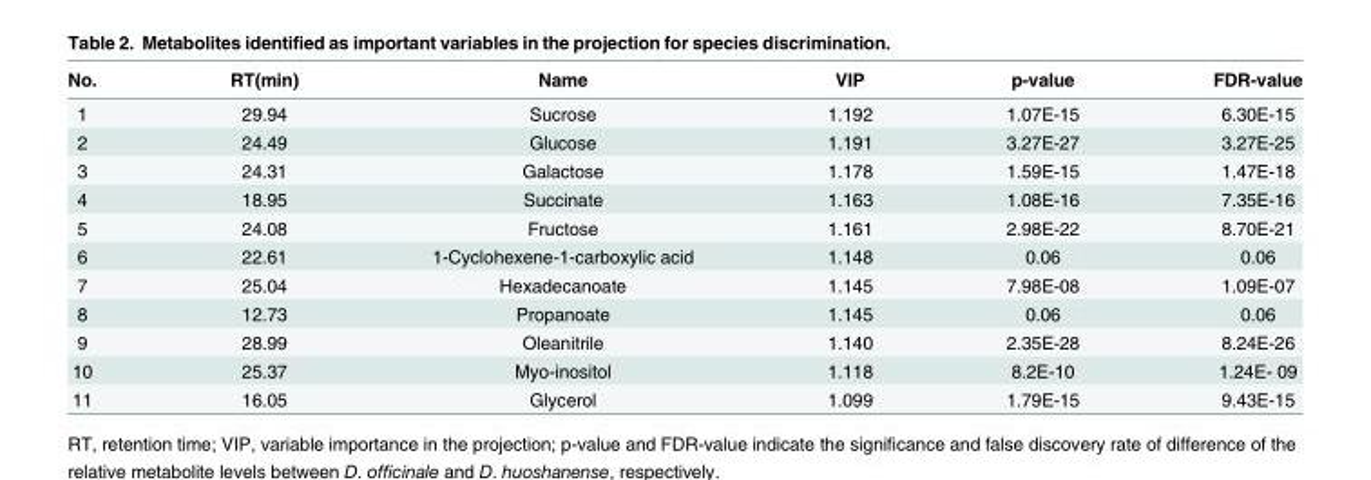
<table><thead><tr><td>No.</td><td>RT(min)</td><td>Name</td><td>VIP</td><td>p-value</td><td>FDR-value</td></tr></thead><tbody><tr><td>1</td><td>29.94</td><td>Sucrose</td><td>1.192</td><td>1.07E-15</td><td>6.30E-15</td></tr><tr><td>2</td><td>24.49</td><td>Glucose</td><td>1.191</td><td>3.27E-27</td><td>3.27E-25</td></tr><tr><td>3</td><td>24.31</td><td>Galactose</td><td>1.178</td><td>1.59E-15</td><td>1.47E-18</td></tr><tr><td>4</td><td>18.95</td><td>Succinate</td><td>1.163</td><td>1.08E-16</td><td>7.35E-16</td></tr><tr><td>5</td><td>24.08</td><td>Fructose</td><td>1.161</td><td>2.98E-22</td><td>8.70E-21</td></tr><tr><td>6</td><td>22.61</td><td>1-Cyclohexene-1-carboxylic acid</td><td>1.148</td><td>0.06</td><td>0.06</td></tr><tr><td>7</td><td>25.04</td><td>Hexadecanoate</td><td>1.145</td><td>7.98E-08</td><td>1.09E-07</td></tr><tr><td>8</td><td>12.73</td><td>Propanoate</td><td>1.145</td><td>0.06</td><td>0.06</td></tr><tr><td>9</td><td>28.99</td><td>Oleanitrile</td><td>1.140</td><td>2.35E-28</td><td>8.24E-26</td></tr><tr><td>10</td><td>25.37</td><td>Myo-inositol</td><td>1.118</td><td>8.2E-10</td><td>1.24E- 09</td></tr><tr><td>11</td><td>16.05</td><td>Glycerol</td><td>1.099</td><td>1.79E-15</td><td>9.43E-15</td></tr></tbody></table>